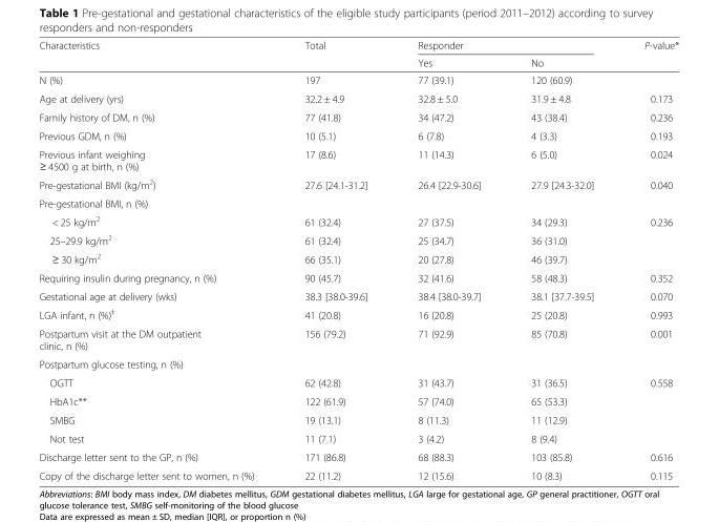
<table><thead><tr><td rowspan="2">Characteristics</td><td rowspan="2">Total</td><td colspan="2">Responder</td><td rowspan="2">P-value*</td></tr><tr><td>Yes</td><td>No</td></tr></thead><tbody><tr><td>N (%)</td><td>197</td><td>77 (39.1)</td><td>120 (60.9)</td><td></td></tr><tr><td>Age at delivery (yrs)</td><td>32.2 ± 4.9</td><td>32.8 ± 5.0</td><td>31.9 ± 4.8</td><td>0.173</td></tr><tr><td>Family history of DM, n (%)</td><td>77 (41.8)</td><td>34 (47.2)</td><td>43 (38.4)</td><td>0.236</td></tr><tr><td>Previous GDM, n (%)</td><td>10 (5.1)</td><td>6 (7.8)</td><td>4 (3.3)</td><td>0.193</td></tr><tr><td>Previous infant weighing ≥ 4500 g at birth, n (%)</td><td>17 (8.6)</td><td>11 (14.3)</td><td>6 (5.0)</td><td>0.024</td></tr><tr><td>Pre-gestational BMI (kg/m<sup>2</sup>)</td><td>27.6 [24.1-31.2]</td><td>26.4 [22.9-30.6]</td><td>27.9 [24.3-32.0]</td><td>0.040</td></tr><tr><td colspan="5">Pre-gestational BMI, n (%)</td></tr><tr><td>&lt; 25 kg/m<sup>2</sup></td><td>61 (32.4)</td><td>27 (37.5)</td><td>34 (29.3)</td><td rowspan="3">0.236</td></tr><tr><td>25–29.9 kg/m<sup>2</sup></td><td>61 (32.4)</td><td>25 (34.7)</td><td>36 (31.0)</td></tr><tr><td>≥ 30 kg/m<sup>2</sup></td><td>66 (35.1)</td><td>20 (27.8)</td><td>46 (39.7)</td></tr><tr><td>Requiring insulin during pregnancy, n (%)</td><td>90 (45.7)</td><td>32 (41.6)</td><td>58 (48.3)</td><td>0.352</td></tr><tr><td>Gestational age at delivery (wks)</td><td>38.3 [38.0-39.6]</td><td>38.4 [38.0-39.7]</td><td>38.1 [37.7-39.5]</td><td>0.070</td></tr><tr><td>LGA infant, n (%)<sup>‡</sup></td><td>41 (20.8)</td><td>16 (20.8)</td><td>25 (20.8)</td><td>0.993</td></tr><tr><td>Postpartum visit at the DM outpatient clinic, n (%)</td><td>156 (79.2)</td><td>71 (92.9)</td><td>85 (70.8)</td><td>0.001</td></tr><tr><td colspan="5">Postpartum glucose testing, n (%)</td></tr><tr><td>OGTT</td><td>62 (42.8)</td><td>31 (43.7)</td><td>31 (36.5)</td><td rowspan="4">0.558</td></tr><tr><td>HbA1c**</td><td>122 (61.9)</td><td>57 (74.0)</td><td>65 (53.3)</td></tr><tr><td>SMBG</td><td>19 (13.1)</td><td>8 (11.3)</td><td>11 (12.9)</td></tr><tr><td>Not test</td><td>11 (7.1)</td><td>3 (4.2)</td><td>8 (9.4)</td></tr><tr><td>Discharge letter sent to the GP, n (%)</td><td>171 (86.8)</td><td>68 (88.3)</td><td>103 (85.8)</td><td>0.616</td></tr><tr><td>Copy of the discharge letter sent to women, n (%)</td><td>22 (11.2)</td><td>12 (15.6)</td><td>10 (8.3)</td><td>0.115</td></tr></tbody></table>